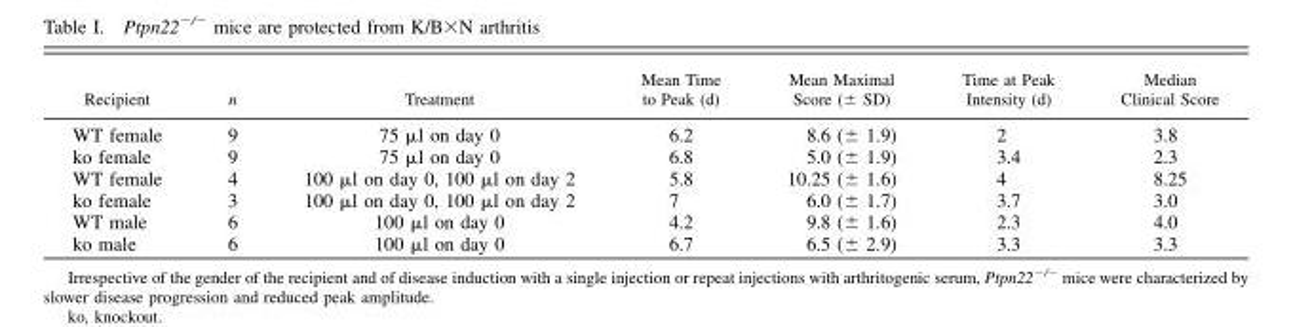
<table><thead><tr><td>Recipient</td><td>n</td><td>Treatment</td><td>Mean Time to Peak (d)</td><td>Mean Maximal Score (± SD)</td><td>Time at Peak Intensity (d)</td><td>Median Clinical Score</td></tr></thead><tbody><tr><td>WT female</td><td>9</td><td>75 μl on day 0</td><td>6.2</td><td>8.6 (± 1.9)</td><td>2</td><td>3.8</td></tr><tr><td>ko female</td><td>9</td><td>75 μl on day 0</td><td>6.8</td><td>5.0 (± 1.9)</td><td>3.4</td><td>2.3</td></tr><tr><td>WT female</td><td>4</td><td>100 μl on day 0, 100 μl on day 2</td><td>5.8</td><td>10.25 (± 1.6)</td><td>4</td><td>8.25</td></tr><tr><td>ko female</td><td>3</td><td>100 μl on day 0, 100 μl on day 2</td><td>7</td><td>6.0 (± 1.7)</td><td>3.7</td><td>3.0</td></tr><tr><td>WT male</td><td>6</td><td>100 μl on day 0</td><td>4.2</td><td>9.8 (± 1.6)</td><td>2.3</td><td>4.0</td></tr><tr><td>ko male</td><td>6</td><td>100 μl on day 0</td><td>6.7</td><td>6.5 (± 2.9)</td><td>3.3</td><td>3.3</td></tr></tbody></table>